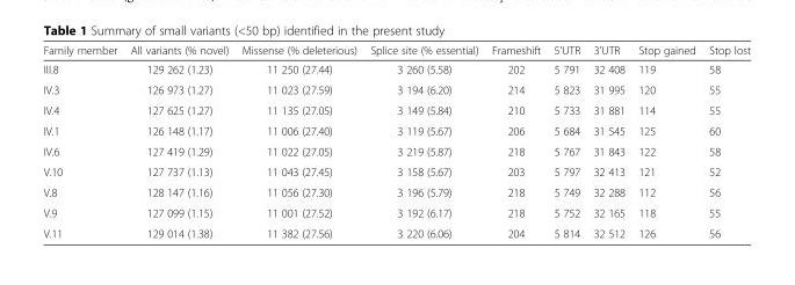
<table><thead><tr><td>Family member</td><td>All variants (% novel)</td><td>Missense (% deleterious)</td><td>Splice site (% essential)</td><td>Frameshift</td><td>5&#x27;UTR</td><td>3&#x27;UTR</td><td>Stop gained</td><td>Stop lost</td></tr></thead><tbody><tr><td>III.8</td><td>129 262 (1.23)</td><td>11 250 (27.44)</td><td>3 260 (5.58)</td><td>202</td><td>5 791</td><td>32 408</td><td>119</td><td>58</td></tr><tr><td>IV.3</td><td>126 973 (1.27)</td><td>11 023 (27.59)</td><td>3 194 (6.20)</td><td>214</td><td>5 823</td><td>31 995</td><td>120</td><td>55</td></tr><tr><td>IV.4</td><td>127 625 (1.27)</td><td>11 135 (27.05)</td><td>3 149 (5.84)</td><td>210</td><td>5 733</td><td>31 881</td><td>114</td><td>55</td></tr><tr><td>IV.1</td><td>126 148 (1.17)</td><td>11 006 (27.40)</td><td>3 119 (5.67)</td><td>206</td><td>5 684</td><td>31 545</td><td>125</td><td>60</td></tr><tr><td>IV.6</td><td>127 419 (1.29)</td><td>11 022 (27.05)</td><td>3 219 (5.87)</td><td>218</td><td>5 767</td><td>31 843</td><td>122</td><td>58</td></tr><tr><td>V.10</td><td>127 737 (1.13)</td><td>11 043 (27.45)</td><td>3 158 (5.67)</td><td>203</td><td>5 797</td><td>32 413</td><td>121</td><td>52</td></tr><tr><td>V.8</td><td>128 147 (1.16)</td><td>11 056 (27.30)</td><td>3 196 (5.79)</td><td>218</td><td>5 749</td><td>32 288</td><td>112</td><td>56</td></tr><tr><td>V.9</td><td>127 099 (1.15)</td><td>11 001 (27.52)</td><td>3 192 (6.17)</td><td>218</td><td>5 752</td><td>32 165</td><td>118</td><td>55</td></tr><tr><td>V.11</td><td>129 014 (1.38)</td><td>11 382 (27.56)</td><td>3 220 (6.06)</td><td>204</td><td>5 814</td><td>32 512</td><td>126</td><td>56</td></tr></tbody></table>